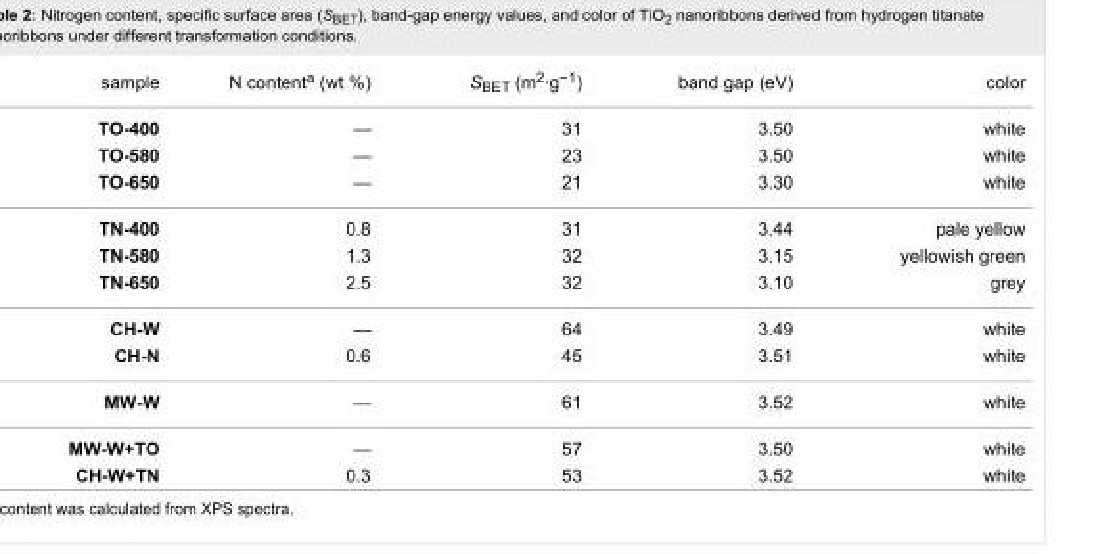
<table><tbody><tr><td>sample</td><td>N content<sup>a</sup> (wt %)</td><td>S<sub>BET</sub> (m<sup>2</sup>·g<sup>−1</sup>)</td><td>band gap (eV)</td><td>color</td></tr><tr><td>TO-400</td><td>—</td><td>31</td><td>3.50</td><td>white</td></tr><tr><td>TO-580</td><td>—</td><td>23</td><td>3.50</td><td>white</td></tr><tr><td>TO-650</td><td>—</td><td>21</td><td>3.30</td><td>white</td></tr><tr><td>TN-400</td><td>0.8</td><td>31</td><td>3.44</td><td>pale yellow</td></tr><tr><td>TN-580</td><td>1.3</td><td>32</td><td>3.15</td><td>yellowish green</td></tr><tr><td>TN-650</td><td>2.5</td><td>32</td><td>3.10</td><td>grey</td></tr><tr><td>CH-W</td><td>—</td><td>64</td><td>3.49</td><td>white</td></tr><tr><td>CH-N</td><td>0.6</td><td>45</td><td>3.51</td><td>white</td></tr><tr><td>MW-W</td><td>—</td><td>61</td><td>3.52</td><td>white</td></tr><tr><td>MW-W+TO</td><td>—</td><td>57</td><td>3.50</td><td>white</td></tr><tr><td>CH-W+TN</td><td>0.3</td><td>53</td><td>3.52</td><td>white</td></tr></tbody></table>